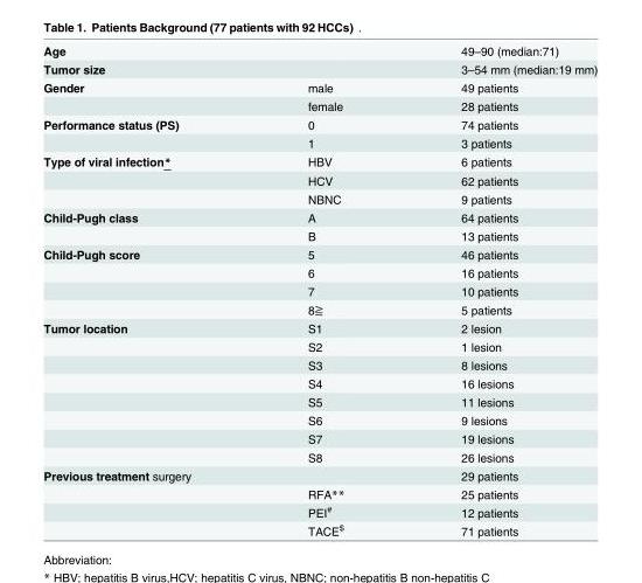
<table><tbody><tr><td>Age</td><td></td><td>49–90 (median:71)</td></tr><tr><td>Tumor size</td><td></td><td>3–54 mm (median:19 mm)</td></tr><tr><td rowspan="2">Gender</td><td>male</td><td>49 patients</td></tr><tr><td>female</td><td>28 patients</td></tr><tr><td rowspan="2">Performance status (PS)</td><td>0</td><td>74 patients</td></tr><tr><td>1</td><td>3 patients</td></tr><tr><td rowspan="3">Type of viral infection*</td><td>HBV</td><td>6 patients</td></tr><tr><td>HCV</td><td>62 patients</td></tr><tr><td>NBNC</td><td>9 patients</td></tr><tr><td rowspan="2">Child-Pugh class</td><td>A</td><td>64 patients</td></tr><tr><td>B</td><td>13 patients</td></tr><tr><td rowspan="4">Child-Pugh score</td><td>5</td><td>46 patients</td></tr><tr><td>6</td><td>16 patients</td></tr><tr><td>7</td><td>10 patients</td></tr><tr><td>8≧</td><td>5 patients</td></tr><tr><td rowspan="8">Tumor location</td><td>S1</td><td>2 lesion</td></tr><tr><td>S2</td><td>1 lesion</td></tr><tr><td>S3</td><td>8 lesions</td></tr><tr><td>S4</td><td>16 lesions</td></tr><tr><td>S5</td><td>11 lesions</td></tr><tr><td>S6</td><td>9 lesions</td></tr><tr><td>S7</td><td>19 lesions</td></tr><tr><td>S8</td><td>26 lesions</td></tr><tr><td rowspan="4">Previous treatment surgery</td><td></td><td>29 patients</td></tr><tr><td>RFA**</td><td>25 patients</td></tr><tr><td>PEI<sup>#</sup></td><td>12 patients</td></tr><tr><td>TACE<sup>$</sup></td><td>71 patients</td></tr></tbody></table>